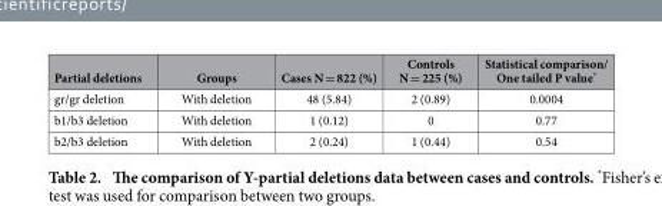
<table><thead><tr><td>Partial deletions</td><td>Groups</td><td>Cases N = 822 (%)</td><td>Controls N = 225 (%)</td><td>Statistical comparison/ One tailed P value*</td></tr></thead><tbody><tr><td>gr/gr deletion</td><td>With deletion</td><td>48 (5.84)</td><td>2 (0.89)</td><td>0.0004</td></tr><tr><td>b1/b3 deletion</td><td>With deletion</td><td>1 (0.12)</td><td>0</td><td>0.77</td></tr><tr><td>b2/b3 deletion</td><td>With deletion</td><td>2 (0.24)</td><td>1 (0.44)</td><td>0.54</td></tr></tbody></table>